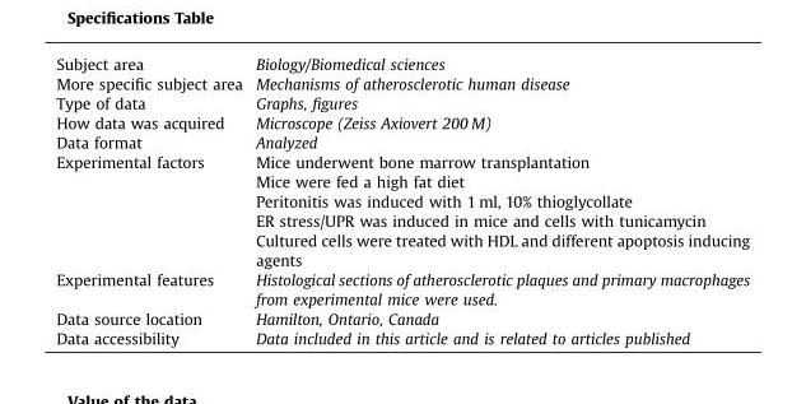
<table><thead><tr><td>Subject area</td><td>Biology/Biomedical sciences</td></tr></thead><tbody><tr><td>More specific subject area</td><td>Mechanisms of atherosclerotic human disease</td></tr><tr><td>Type of data</td><td>Graphs, figures</td></tr><tr><td>How data was acquired</td><td>Microscope (Zeiss Axiovert 200 M)</td></tr><tr><td>Data format</td><td>Analyzed</td></tr><tr><td rowspan="5">Experimental factors</td><td>Mice underwent bone marrow transplantation</td></tr><tr><td>Mice were fed a high fat diet</td></tr><tr><td>Peritonitis was induced with 1 ml, 10% thioglycollate</td></tr><tr><td>ER stress/UPR was induced in mice and cells with tunicamycin</td></tr><tr><td>Cultured cells were treated with HDL and different apoptosis inducing agents</td></tr><tr><td>Experimental features</td><td>Histological sections of atherosclerotic plaques and primary macrophages from experimental mice were used.</td></tr><tr><td>Data source location</td><td>Hamilton, Ontario, Canada</td></tr><tr><td>Data accessibility</td><td>Data included in this article and is related to articles published</td></tr></tbody></table>